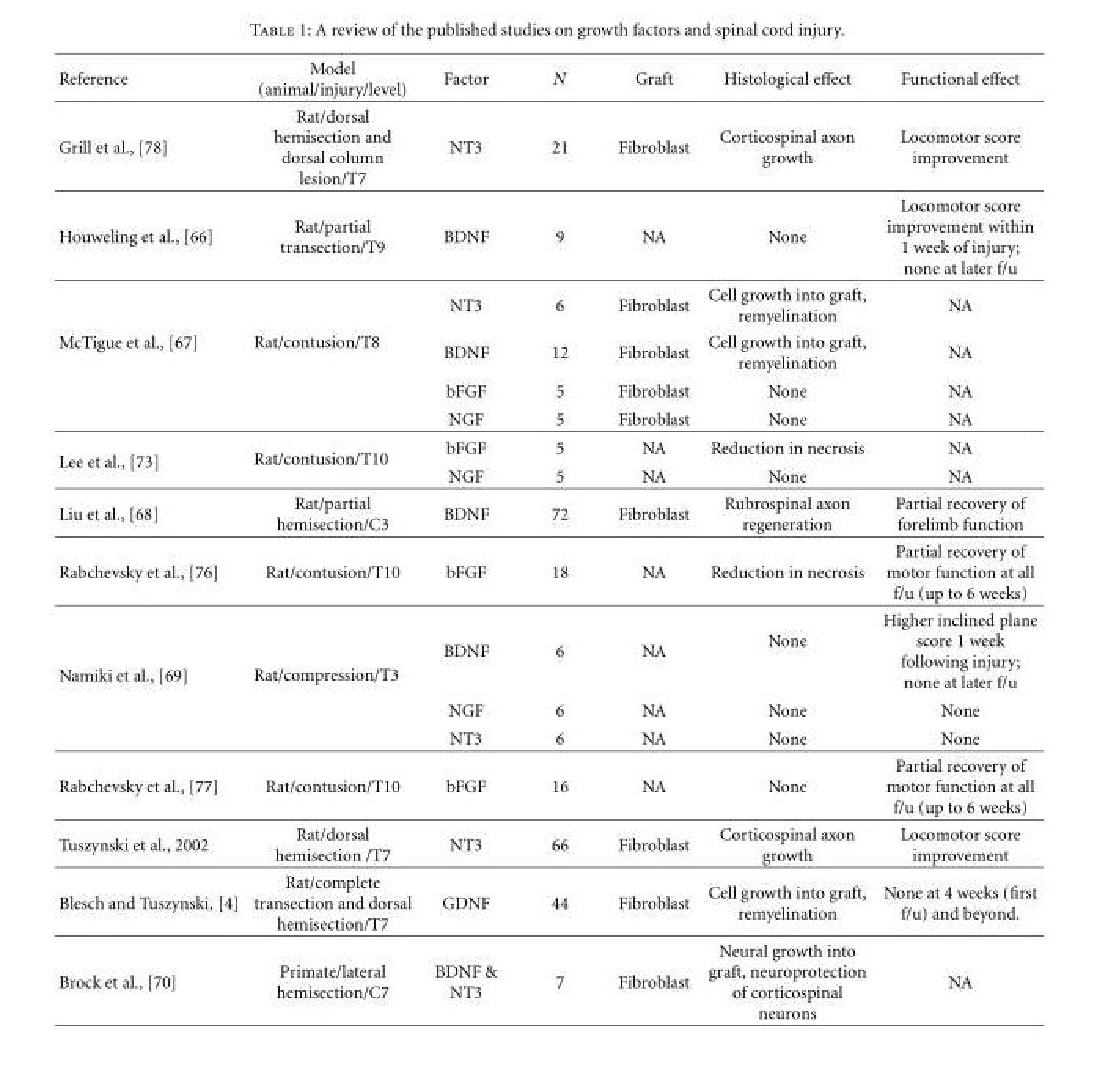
<table><thead><tr><td>Reference</td><td>Model (animal/injury/level)</td><td>Factor</td><td>N</td><td>Graft</td><td>Histological effect</td><td>Functional effect</td></tr></thead><tbody><tr><td>Grill et al., [78]</td><td>Rat/dorsal hemisection and dorsal column lesion/T7</td><td>NT3</td><td>21</td><td>Fibroblast</td><td>Corticospinal axon growth</td><td>Locomotor score improvement</td></tr><tr><td>Houweling et al., [66]</td><td>Rat/partial transection/T9</td><td>BDNF</td><td>9</td><td>NA</td><td>None</td><td>Locomotor score improvement within 1 week of injury; none at later f/u</td></tr><tr><td rowspan="4">McTigue et al., [67]</td><td rowspan="4">Rat/contusion/T8</td><td>NT3</td><td>6</td><td>Fibroblast</td><td>Cell growth into graft, remyelination</td><td>NA</td></tr><tr><td>BDNF</td><td>12</td><td>Fibroblast</td><td>Cell growth into graft, remyelination</td><td>NA</td></tr><tr><td>bFGF</td><td>5</td><td>Fibroblast</td><td>None</td><td>NA</td></tr><tr><td>NGF</td><td>5</td><td>Fibroblast</td><td>None</td><td>NA</td></tr><tr><td rowspan="2">Lee et al., [73]</td><td rowspan="2">Rat/contusion/T10</td><td>bFGF</td><td>5</td><td>NA</td><td>Reduction in necrosis</td><td>NA</td></tr><tr><td>NGF</td><td>5</td><td>NA</td><td>None</td><td>NA</td></tr><tr><td>Liu et al., [68]</td><td>Rat/partial hemisection/C3</td><td>BDNF</td><td>72</td><td>Fibroblast</td><td>Rubrospinal axon regeneration</td><td>Partial recovery of forelimb function</td></tr><tr><td>Rabchevsky et al., [76]</td><td>Rat/contusion/T10</td><td>bFGF</td><td>18</td><td>NA</td><td>Reduction in necrosis</td><td>Partial recovery of motor function at all f/u (up to 6 weeks)</td></tr><tr><td rowspan="3">Namiki et al., [69]</td><td rowspan="3">Rat/compression/T3</td><td>BDNF</td><td>6</td><td>NA</td><td>None</td><td>Higher inclined plane score 1 week following injury; none at later f/u</td></tr><tr><td>NGF</td><td>6</td><td>NA</td><td>None</td><td>None</td></tr><tr><td>NT3</td><td>6</td><td>NA</td><td>None</td><td>None</td></tr><tr><td>Rabchevsky et al., [77]</td><td>Rat/contusion/T10</td><td>bFGF</td><td>16</td><td>NA</td><td>None</td><td>Partial recovery of motor function at all f/u (up to 6 weeks)</td></tr><tr><td>Tuszynski et al., 2002</td><td>Rat/dorsal hemisection /T7</td><td>NT3</td><td>66</td><td>Fibroblast</td><td>Corticospinal axon growth</td><td>Locomotor score improvement</td></tr><tr><td>Blesch and Tuszynski, [4]</td><td>Rat/complete transection and dorsal hemisection/T7</td><td>GDNF</td><td>44</td><td>Fibroblast</td><td>Cell growth into graft, remyelination</td><td>None at 4 weeks (first f/u) and beyond.</td></tr><tr><td>Brock et al., [70]</td><td>Primate/lateral hemisection/C7</td><td>BDNF &amp; NT3</td><td>7</td><td>Fibroblast</td><td>Neural growth into graft, neuroprotection of corticospinal neurons</td><td>NA</td></tr></tbody></table>